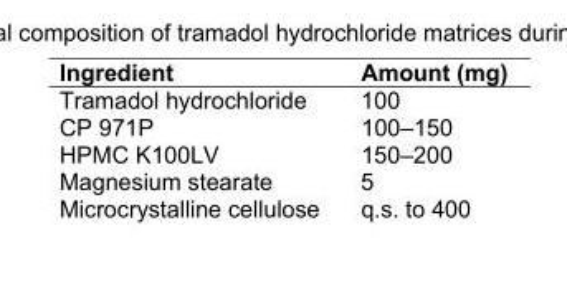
<table><thead><tr><td>Ingredient</td><td>Amount (mg)</td></tr></thead><tbody><tr><td>Tramadol hydrochloride</td><td>100</td></tr><tr><td>CP 971P</td><td>100–150</td></tr><tr><td>HPMC K100LV</td><td>150–200</td></tr><tr><td>Magnesium stearate</td><td>5</td></tr><tr><td>Microcrystalline cellulose</td><td>q.s. to 400</td></tr></tbody></table>